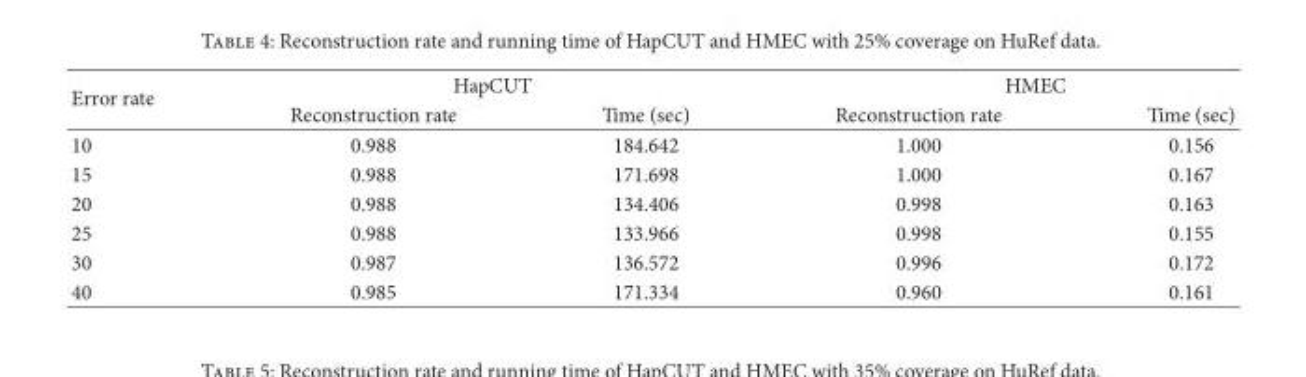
<table><thead><tr><td rowspan="2">Error rate</td><td colspan="2">HapCUT</td><td colspan="2">HMEC</td></tr><tr><td>Reconstruction rate</td><td>Time (sec)</td><td>Reconstruction rate</td><td>Time (sec)</td></tr></thead><tbody><tr><td>10</td><td>0.988</td><td>184.642</td><td>1.000</td><td>0.156</td></tr><tr><td>15</td><td>0.988</td><td>171.698</td><td>1.000</td><td>0.167</td></tr><tr><td>20</td><td>0.988</td><td>134.406</td><td>0.998</td><td>0.163</td></tr><tr><td>25</td><td>0.988</td><td>133.966</td><td>0.998</td><td>0.155</td></tr><tr><td>30</td><td>0.987</td><td>136.572</td><td>0.996</td><td>0.172</td></tr><tr><td>40</td><td>0.985</td><td>171.334</td><td>0.960</td><td>0.161</td></tr></tbody></table>